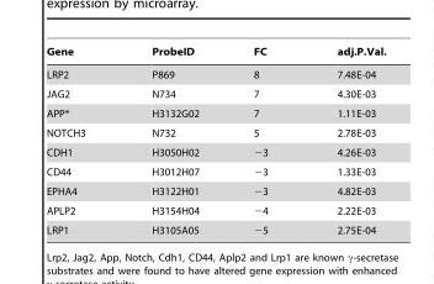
<table><thead><tr><td>Gene</td><td>ProbeID</td><td>FC</td><td>adj.P.Val.</td></tr></thead><tbody><tr><td>LRP2</td><td>P869</td><td>8</td><td>7.48E-04</td></tr><tr><td>JAG2</td><td>N734</td><td>7</td><td>4.30E-03</td></tr><tr><td>APP*</td><td>H3132G02</td><td>7</td><td>1.11E-03</td></tr><tr><td>NOTCH3</td><td>N732</td><td>5</td><td>2.78E-03</td></tr><tr><td>CDH1</td><td>H3050H02</td><td>−3</td><td>4.26E-03</td></tr><tr><td>CD44</td><td>H3012H07</td><td>−3</td><td>1.33E-03</td></tr><tr><td>EPHA4</td><td>H3122H01</td><td>−3</td><td>4.82E-03</td></tr><tr><td>APLP2</td><td>H3154H04</td><td>−4</td><td>2.22E-03</td></tr><tr><td>LRP1</td><td>H3105A05</td><td>−5</td><td>2.75E-04</td></tr></tbody></table>